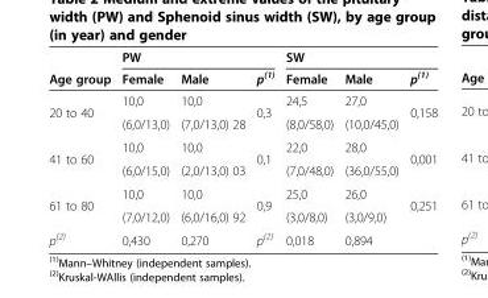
<table><thead><tr><td rowspan="2">Age group</td><td colspan="3">PW</td><td colspan="3">SW</td></tr><tr><td>Female</td><td>Male</td><td>p<sup>(1)</sup></td><td>Female</td><td>Male</td><td>p<sup>(1)</sup></td></tr></thead><tbody><tr><td rowspan="2">20 to 40</td><td>10,0</td><td>10,0</td><td rowspan="2">0,3</td><td>24,5</td><td>27,0</td><td rowspan="2">0,158</td></tr><tr><td>(6,0/13,0)</td><td>(7,0/13,0) 28</td><td>(8,0/58,0)</td><td>(10,0/45,0)</td></tr><tr><td rowspan="2">41 to 60</td><td>10,0</td><td>10,0</td><td rowspan="2">0,1</td><td>22,0</td><td>28,0</td><td rowspan="2">0,001</td></tr><tr><td>(6,0/15,0)</td><td>(2,0/13,0) 03</td><td>(7,0/48,0)</td><td>(36,0/55,0)</td></tr><tr><td rowspan="2">61 to 80</td><td>10,0</td><td>10,0</td><td rowspan="2">0,9</td><td>25,0</td><td>26,0</td><td rowspan="2">0,251</td></tr><tr><td>(7,0/12,0)</td><td>(6,0/16,0) 92</td><td>(3,0/8,0)</td><td>(3,0/9,0)</td></tr><tr><td>p<sup>(2)</sup></td><td>0,430</td><td>0,270</td><td>p<sup>(2)</sup></td><td>0,018</td><td>0,894</td><td></td></tr></tbody></table>